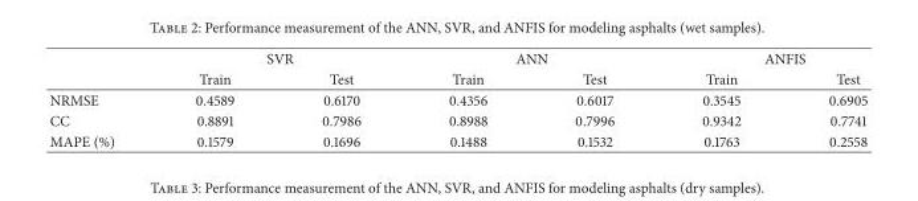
<table><thead><tr><td rowspan="2"></td><td colspan="2">SVR</td><td colspan="2">ANN</td><td colspan="2">ANFIS</td></tr><tr><td>Train</td><td>Test</td><td>Train</td><td>Test</td><td>Train</td><td>Test</td></tr></thead><tbody><tr><td>NRMSE</td><td>0.4589</td><td>0.6170</td><td>0.4356</td><td>0.6017</td><td>0.3545</td><td>0.6905</td></tr><tr><td>CC</td><td>0.8891</td><td>0.7986</td><td>0.8988</td><td>0.7996</td><td>0.9342</td><td>0.7741</td></tr><tr><td>MAPE (%)</td><td>0.1579</td><td>0.1696</td><td>0.1488</td><td>0.1532</td><td>0.1763</td><td>0.2558</td></tr></tbody></table>